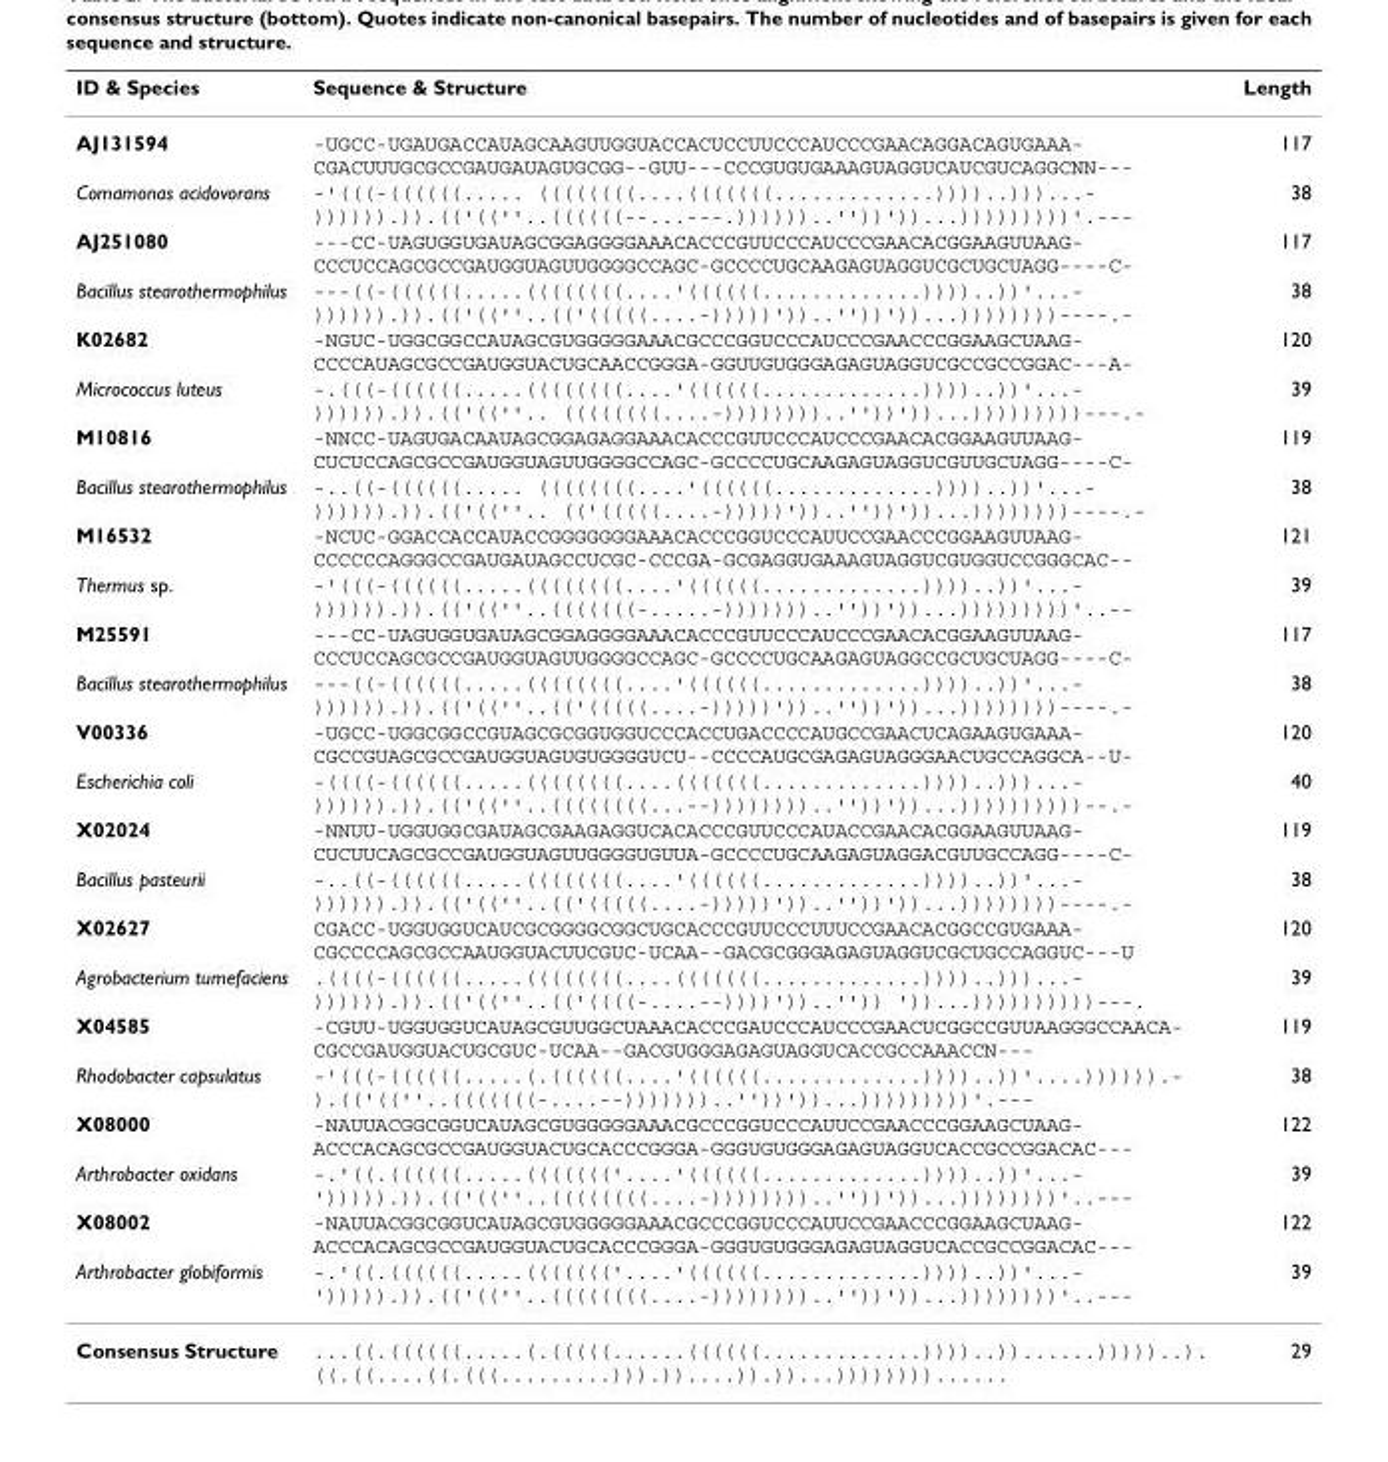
<table><thead><tr><td>ID &amp; Species</td><td>Sequence &amp; Structure</td><td>Length</td></tr></thead><tbody><tr><td>AJ131594</td><td>-UGCC-UGAUGACCAUAGCAAGUUGGUACCACUCCUUCCCAUCCCGAACAGGACAGUGAAA- CGACUUUGCGCCGAUGAUAGUGCGG--GUU---CCCGUGUGAAAGUAGGUCAUCGUCAGGCNN---</td><td>117</td></tr><tr><td>Comamonas acidovorans</td><td>-&#x27;(((-((((((..... ((((((((....(((((((.............))))..)))...- )))))).)).((&#x27;((&#x27;&#x27;..((((((--...---.))))))..&#x27;&#x27;))&#x27;))...)))))))))&#x27;.---</td><td>38</td></tr><tr><td>AJ251080</td><td>---CC-UAGUGGUGAUAGCGGAGGGGAAACACCCGUUCCCAUCCCGAACACGGAAGUUAAG- CCCUCCAGCGCCGAUGGUAGUUGGGGCCAGC-GCCCCUGCAAGAGUAGGUCGCUGCUAGG----C-</td><td>117</td></tr><tr><td>Bacillus stearothermophilus</td><td>---((-((((((.....((((((((....&#x27;((((((.............))))..))&#x27;...- )))))).)).((&#x27;((&#x27;&#x27;..((&#x27;(((((....-)))))&#x27;))..&#x27;&#x27;))&#x27;))...))))))))----.-</td><td>38</td></tr><tr><td>K02682</td><td>-NGUC-UGGCGGCCAUAGCGUGGGGGAAACGCCCGGUCCCAUCCCGAACCCGGAAGCUAAG- CCCCAUAGCGCCGAUGGUACUGCAACCGGGA-GGUUGUGGGAGAGUAGGUCGCCGCCGGAC---A-</td><td>120</td></tr><tr><td>Micrococcus luteus</td><td>-.(((-((((((.....((((((((....&#x27;((((((.............))))..))&#x27;...- )))))).)).((&#x27;((&#x27;&#x27;.. ((((((((....-))))))))..&#x27;&#x27;))&#x27;))...)))))))))---.-</td><td>39</td></tr><tr><td>M10816</td><td>-NNCC-UAGUGACAAUAGCGGAGAGGAAACACCCGUUCCCAUCCCGAACACGGAAGUUAAG- CUCUCCAGCGCCGAUGGUAGUUGGGGCCAGC-GCCCCUGCAAGAGUAGGUCGUUGCUAGG----C-</td><td>119</td></tr><tr><td>Bacillus stearothermophilus</td><td>-..((-((((((..... ((((((((....&#x27;((((((.............))))..))&#x27;...- )))))).)).((&#x27;((&#x27;&#x27;.. ((&#x27;(((((....-)))))&#x27;))..&#x27;&#x27;))&#x27;))...))))))))----.-</td><td>38</td></tr><tr><td>M16532</td><td>-NCUC-GGACCACCAUACCGGGGGGGAAACACCCGGUCCCAUUCCGAACCCGGAAGUUAAG- CCCCCCAGGGCCGAUGAUAGCCUCGC-CCCGA-GCGAGGUGAAAGUAGGUCGUGGUCCGGGCAC--</td><td>121</td></tr><tr><td>Thermus sp.</td><td>-&#x27;(((-((((((.....((((((((....&#x27;((((((.............))))..))&#x27;...- )))))).)).((&#x27;((&#x27;&#x27;..(((((((-.....-)))))))..&#x27;&#x27;))&#x27;))...)))))))))&#x27;..--</td><td>39</td></tr><tr><td>M25591</td><td>---CC-UAGUGGUGAUAGCGGAGGGGAAACACCCGUUCCCAUCCCGAACACGGAAGUUAAG- CCCUCCAGCGCCGAUGGUAGUUGGGGCCAGC-GCCCCUGCAAGAGUAGGCCGCUGCUAGG----C-</td><td>117</td></tr><tr><td>Bacillus stearothermophilus</td><td>---((-((((((.....((((((((....&#x27;((((((.............))))..))&#x27;...- )))))).)).((&#x27;((&#x27;&#x27;..((&#x27;(((((....-)))))&#x27;))..&#x27;&#x27;))&#x27;))...))))))))----.-</td><td>38</td></tr><tr><td>V00336</td><td>-UGCC-UGGCGGCCGUAGCGCGGUGGUCCCACCUGACCCCAUGCCGAACUCAGAAGUGAAA- CGCCGUAGCGCCGAUGGUAGUGUGGGGUCU--CCCCAUGCGAGAGUAGGGAACUGCCAGGCA--U-</td><td>120</td></tr><tr><td>Escherichia coli</td><td>-((((-((((((.....((((((((....(((((((.............))))..)))...- )))))).)).((&#x27;((&#x27;&#x27;..((((((((...--))))))))..&#x27;&#x27;))&#x27;))...))))))))))--.-</td><td>40</td></tr><tr><td>X02024</td><td>-NNUU-UGGUGGCGAUAGCGAAGAGGUCACACCCGUUCCCAUACCGAACACGGAAGUUAAG- CUCUUCAGCGCCGAUGGUAGUUGGGGUGUUA-GCCCCUGCAAGAGUAGGACGUUGCCAGG----C-</td><td>119</td></tr><tr><td>Bacillus pasteurii</td><td>-..((-((((((.....((((((((....&#x27;((((((.............))))..))&#x27;...- )))))).)).((&#x27;((&#x27;&#x27;..((&#x27;(((((....-)))))&#x27;))..&#x27;&#x27;))&#x27;))...))))))))----.-</td><td>38</td></tr><tr><td>X02627</td><td>CGACC-UGGUGGUCAUCGCGGGGCGGCUGCACCCGUUCCCUUUCCGAACACGGCCGUGAAA- CGCCCCAGCGCCAAUGGUACUUCGUC-UCAA--GACGCGGGAGAGUAGGUCGCUGCCAGGUC---U</td><td>120</td></tr><tr><td>Agrobacterium tumefaciens</td><td>.((((-((((((.....((((((((....(((((((.............))))..)))...- )))))).)).((&#x27;((&#x27;&#x27;..((&#x27;((((-....--))))&#x27;))..&#x27;&#x27;)) &#x27;))...))))))))))---.</td><td>39</td></tr><tr><td>X04585</td><td>-CGUU-UGGUGGUCAUAGCGUUGGCUAAACACCCGAUCCCAUCCCGAACUCGGCCGUUAAGGGCCAACA- CGCCGAUGGUACUGCGUC-UCAA--GACGUGGGAGAGUAGGUCACCGCCAAACCN---</td><td>119</td></tr><tr><td>Rhodobacter capsulatus</td><td>-&#x27;(((-((((((.....(.((((((....&#x27;((((((.............))))..))&#x27;....)))))).- ).((&#x27;((&#x27;&#x27;..(((((((-....--)))))))..&#x27;&#x27;))&#x27;))...)))))))))&#x27;.---</td><td>38</td></tr><tr><td>X08000</td><td>-NAUUACGGCGGUCAUAGCGUGGGGGAAACGCCCGGUCCCAUUCCGAACCCGGAAGCUAAG- ACCCACAGCGCCGAUGGUACUGCACCCGGGA-GGGUGUGGGAGAGUAGGUCACCGCCGGACAC---</td><td>122</td></tr><tr><td>Arthrobacter oxidans</td><td>-.&#x27;((.((((((.....(((((((&#x27;....&#x27;((((((.............))))..))&#x27;...- &#x27;))))).)).((&#x27;((&#x27;&#x27;..((((((((....-))))))))..&#x27;&#x27;))&#x27;))...))))))))&#x27;..---</td><td>39</td></tr><tr><td>X08002</td><td>-NAUUACGGCGGUCAUAGCGUGGGGGAAACGCCCGGUCCCAUUCCGAACCCGGAAGCUAAG- ACCCACAGCGCCGAUGGUACUGCACCCGGGA-GGGUGUGGGAGAGUAGGUCACCGCCGGACAC---</td><td>122</td></tr><tr><td>Arthrobacter globiformis</td><td>-.&#x27;((.((((((.....(((((((&#x27;....&#x27;((((((.............))))..))&#x27;...- &#x27;))))).)).((&#x27;((&#x27;&#x27;..((((((((....-))))))))..&#x27;&#x27;))&#x27;))...))))))))&#x27;..---</td><td>39</td></tr><tr><td>Consensus Structure</td><td>...((.((((((.....(.(((((......((((((.............))))..))......)))))..). ((.((....((.(((.........))).))....)).))...))))))))......</td><td>29</td></tr></tbody></table>